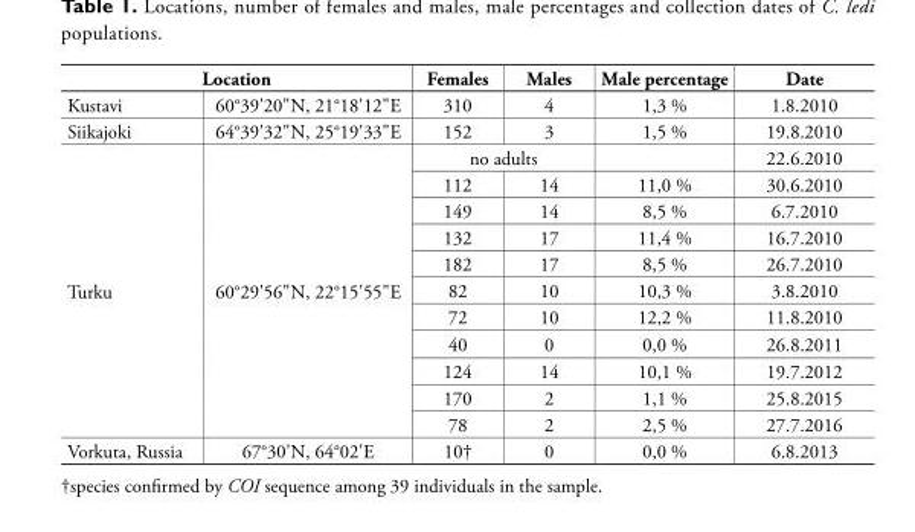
<table><thead><tr><td colspan="2">Location</td><td rowspan="2">Females 310</td><td rowspan="2">Males 4</td><td rowspan="2">Male percentage 1,3 %</td><td rowspan="2">Date 1.8.2010</td></tr><tr><td>Kustavi</td><td>60°39&#x27;20&quot;N, 21°18&#x27;12&quot;E</td></tr></thead><tbody><tr><td>Siikajoki</td><td>64°39&#x27;32&quot;N, 25°19&#x27;33&quot;E</td><td>152</td><td>3</td><td>1,5 %</td><td>19.8.2010</td></tr><tr><td rowspan="11">Turku</td><td rowspan="11">60°29&#x27;56&quot;N, 22°15&#x27;55&quot;E</td><td colspan="2">no adults</td><td></td><td>22.6.2010</td></tr><tr><td>112</td><td>14</td><td>11,0 %</td><td>30.6.2010</td></tr><tr><td>149</td><td>14</td><td>8,5 %</td><td>6.7.2010</td></tr><tr><td>132</td><td>17</td><td>11,4 %</td><td>16.7.2010</td></tr><tr><td>182</td><td>17</td><td>8,5 %</td><td>26.7.2010</td></tr><tr><td>82</td><td>10</td><td>10,3 %</td><td>3.8.2010</td></tr><tr><td>72</td><td>10</td><td>12,2 %</td><td>11.8.2010</td></tr><tr><td>40</td><td>0</td><td>0,0 %</td><td>26.8.2011</td></tr><tr><td>124</td><td>14</td><td>10,1 %</td><td>19.7.2012</td></tr><tr><td>170</td><td>2</td><td>1,1 %</td><td>25.8.2015</td></tr><tr><td>78</td><td>2</td><td>2,5 %</td><td>27.7.2016</td></tr><tr><td>Vorkuta, Russia</td><td>67°30&#x27;N, 64°02&#x27;E</td><td>10†</td><td>0</td><td>0,0 %</td><td>6.8.2013</td></tr></tbody></table>